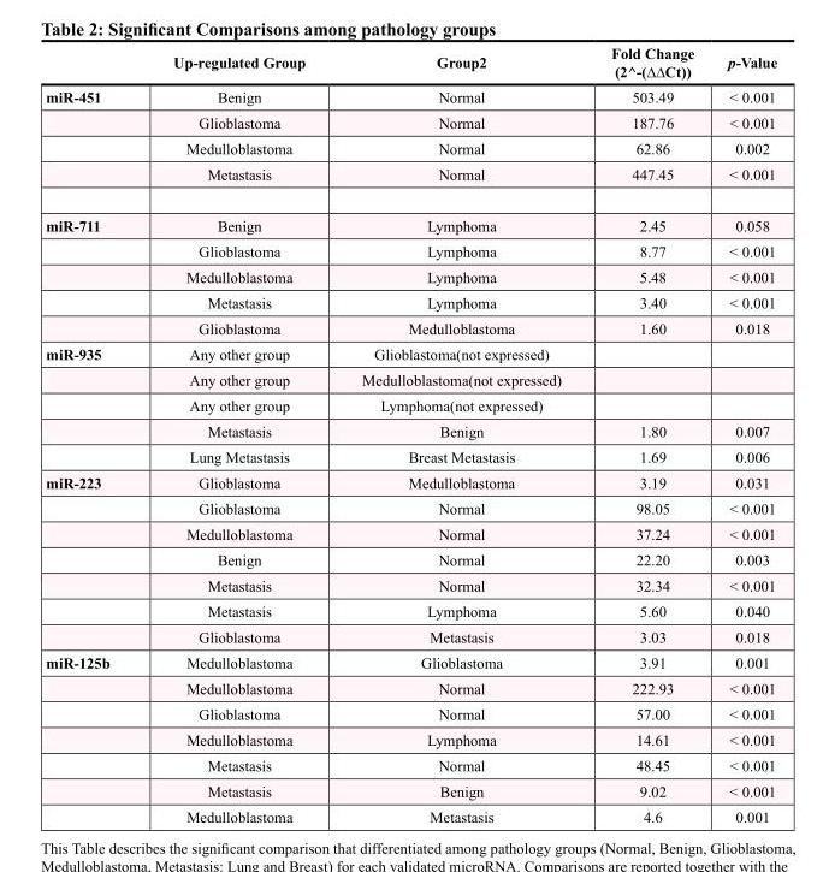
<table><thead><tr><td></td><td>Up-regulated Group</td><td>Group2</td><td>Fold Change (2^-(∆∆Ct))</td><td>p-Value</td></tr></thead><tbody><tr><td rowspan="4">miR-451</td><td>Benign</td><td>Normal</td><td>503.49</td><td>&lt; 0.001</td></tr><tr><td>Glioblastoma</td><td>Normal</td><td>187.76</td><td>&lt; 0.001</td></tr><tr><td>Medulloblastoma</td><td>Normal</td><td>62.86</td><td>0.002</td></tr><tr><td>Metastasis</td><td>Normal</td><td>447.45</td><td>&lt; 0.001</td></tr><tr><td rowspan="5">miR-711</td><td>Benign</td><td>Lymphoma</td><td>2.45</td><td>0.058</td></tr><tr><td>Glioblastoma</td><td>Lymphoma</td><td>8.77</td><td>&lt; 0.001</td></tr><tr><td>Medulloblastoma</td><td>Lymphoma</td><td>5.48</td><td>&lt; 0.001</td></tr><tr><td>Metastasis</td><td>Lymphoma</td><td>3.40</td><td>&lt; 0.001</td></tr><tr><td>Glioblastoma</td><td>Medulloblastoma</td><td>1.60</td><td>0.018</td></tr><tr><td rowspan="5">miR-935</td><td>Any other group</td><td>Glioblastoma(not expressed)</td><td></td><td></td></tr><tr><td>Any other group</td><td>Medulloblastoma(not expressed)</td><td></td><td></td></tr><tr><td>Any other group</td><td>Lymphoma(not expressed)</td><td></td><td></td></tr><tr><td>Metastasis</td><td>Benign</td><td>1.80</td><td>0.007</td></tr><tr><td>Lung Metastasis</td><td>Breast Metastasis</td><td>1.69</td><td>0.006</td></tr><tr><td rowspan="7">miR-223</td><td>Glioblastoma</td><td>Medulloblastoma</td><td>3.19</td><td>0.031</td></tr><tr><td>Glioblastoma</td><td>Normal</td><td>98.05</td><td>&lt; 0.001</td></tr><tr><td>Medulloblastoma</td><td>Normal</td><td>37.24</td><td>&lt; 0.001</td></tr><tr><td>Benign</td><td>Normal</td><td>22.20</td><td>0.003</td></tr><tr><td>Metastasis</td><td>Normal</td><td>32.34</td><td>&lt; 0.001</td></tr><tr><td>Metastasis</td><td>Lymphoma</td><td>5.60</td><td>0.040</td></tr><tr><td>Glioblastoma</td><td>Metastasis</td><td>3.03</td><td>0.018</td></tr><tr><td rowspan="7">miR-125b</td><td>Medulloblastoma</td><td>Glioblastoma</td><td>3.91</td><td>0.001</td></tr><tr><td>Medulloblastoma</td><td>Normal</td><td>222.93</td><td>&lt; 0.001</td></tr><tr><td>Glioblastoma</td><td>Normal</td><td>57.00</td><td>&lt; 0.001</td></tr><tr><td>Medulloblastoma</td><td>Lymphoma</td><td>14.61</td><td>&lt; 0.001</td></tr><tr><td>Metastasis</td><td>Normal</td><td>48.45</td><td>&lt; 0.001</td></tr><tr><td>Metastasis</td><td>Benign</td><td>9.02</td><td>&lt; 0.001</td></tr><tr><td>Medulloblastoma</td><td>Metastasis</td><td>4.6</td><td>0.001</td></tr></tbody></table>